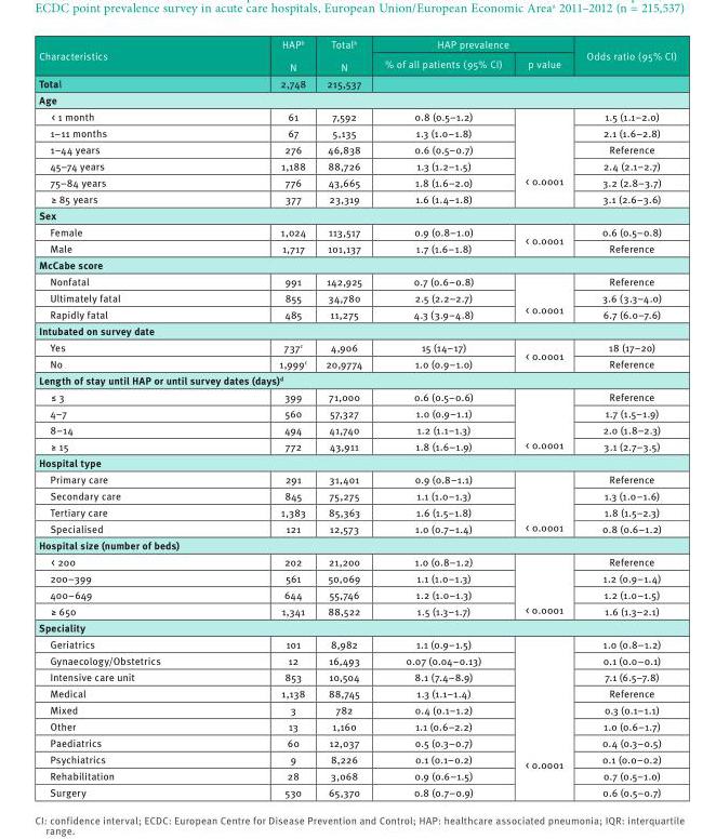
<table><thead><tr><td rowspan="2">Characteristics</td><td rowspan="2">HAP<sup>b</sup> N</td><td rowspan="2">Total<sup>b</sup> N</td><td colspan="2">HAP prevalence</td><td rowspan="2">Odds ratio (95% CI)</td></tr><tr><td>% of all patients (95% CI)</td><td>p value</td></tr></thead><tbody><tr><td>Total</td><td>2,748</td><td>215,537</td><td colspan="3"></td></tr><tr><td colspan="6">Age</td></tr><tr><td>&lt; 1 month</td><td>61</td><td>7,592</td><td>0.8 (0.5–1.2)</td><td rowspan="6">&lt; 0.0001</td><td>1.5 (1.1–2.0)</td></tr><tr><td>1–11 months</td><td>67</td><td>5,135</td><td>1.3 (1.0–1.8)</td><td>2.1 (1.6–2.8)</td></tr><tr><td>1–44 years</td><td>276</td><td>46,838</td><td>0.6 (0.5–0.7)</td><td>Reference</td></tr><tr><td>45–74 years</td><td>1,188</td><td>88,726</td><td>1.3 (1.2–1.5)</td><td>2.4 (2.1–2.7)</td></tr><tr><td>75–84 years</td><td>776</td><td>43,665</td><td>1.8 (1.6–2.0)</td><td>3.2 (2.8–3.7)</td></tr><tr><td>≥ 85 years</td><td>377</td><td>23,319</td><td>1.6 (1.4–1.8)</td><td>3.1 (2.6–3.6)</td></tr><tr><td colspan="6">Sex</td></tr><tr><td>Female</td><td>1,024</td><td>113,517</td><td>0.9 (0.8–1.0)</td><td rowspan="2">&lt; 0.0001</td><td>0.6 (0.5–0.8)</td></tr><tr><td>Male</td><td>1,717</td><td>101,137</td><td>1.7 (1.6–1.8)</td><td>Reference</td></tr><tr><td colspan="6">McCabe score</td></tr><tr><td>Nonfatal</td><td>991</td><td>142,925</td><td>0.7 (0.6–0.8)</td><td rowspan="3">&lt; 0.0001</td><td>Reference</td></tr><tr><td>Ultimately fatal</td><td>855</td><td>34,780</td><td>2.5 (2.2–2.7)</td><td>3.6 (3.3–4.0)</td></tr><tr><td>Rapidly fatal</td><td>485</td><td>11,275</td><td>4.3 (3.9–4.8)</td><td>6.7 (6.0–7.6)</td></tr><tr><td colspan="6">Intubated on survey date</td></tr><tr><td>Yes</td><td>737<sup>c</sup></td><td>4,906</td><td>15 (14–17)</td><td rowspan="2">&lt; 0.0001</td><td>18 (17–20)</td></tr><tr><td>No</td><td>1,999<sup>c</sup></td><td>20,9774</td><td>1.0 (0.9–1.0)</td><td>Reference</td></tr><tr><td colspan="6">Length of stay until HAP or until survey dates (days)<sup>d</sup></td></tr><tr><td>≤ 3</td><td>399</td><td>71,000</td><td>0.6 (0.5–0.6)</td><td rowspan="4">&lt; 0.0001</td><td>Reference</td></tr><tr><td>4–7</td><td>560</td><td>57,327</td><td>1.0 (0.9–1.1)</td><td>1.7 (1.5–1.9)</td></tr><tr><td>8–14</td><td>494</td><td>41,740</td><td>1.2 (1.1–1.3)</td><td>2.0 (1.8–2.3)</td></tr><tr><td>≥ 15</td><td>772</td><td>43,911</td><td>1.8 (1.6–1.9)</td><td>3.1 (2.7–3.5)</td></tr><tr><td colspan="6">Hospital type</td></tr><tr><td>Primary care</td><td>291</td><td>31,401</td><td>0.9 (0.8–1.1)</td><td rowspan="4">&lt; 0.0001</td><td>Reference</td></tr><tr><td>Secondary care</td><td>845</td><td>75,275</td><td>1.1 (1.0–1.3)</td><td>1.3 (1.0–1.6)</td></tr><tr><td>Tertiary care</td><td>1,383</td><td>85,363</td><td>1.6 (1.5–1.8)</td><td>1.8 (1.5–2.3)</td></tr><tr><td>Specialised</td><td>121</td><td>12,573</td><td>1.0 (0.7–1.4)</td><td>0.8 (0.6–1.2)</td></tr><tr><td colspan="6">Hospital size (number of beds)</td></tr><tr><td>&lt; 200</td><td>202</td><td>21,200</td><td>1.0 (0.8–1.2)</td><td rowspan="4">&lt; 0.0001</td><td>Reference</td></tr><tr><td>200–399</td><td>561</td><td>50,069</td><td>1.1 (1.0–1.3)</td><td>1.2 (0.9–1.4)</td></tr><tr><td>400–649</td><td>644</td><td>55,746</td><td>1.2 (1.0–1.3)</td><td>1.2 (1.0–1.5)</td></tr><tr><td>≥ 650</td><td>1,341</td><td>88,522</td><td>1.5 (1.3–1.7)</td><td>1.6 (1.3–2.1)</td></tr><tr><td colspan="6">Speciality</td></tr><tr><td>Geriatrics</td><td>101</td><td>8,982</td><td>1.1 (0.9–1.5)</td><td rowspan="10">&lt; 0.0001</td><td>1.0 (0.8–1.2)</td></tr><tr><td>Gynaecology/Obstetrics</td><td>12</td><td>16,493</td><td>0.07 (0.04–0.13)</td><td>0.1 (0.0–0.1)</td></tr><tr><td>Intensive care unit</td><td>853</td><td>10,504</td><td>8.1 (7.4–8.9)</td><td>7.1 (6.5–7.8)</td></tr><tr><td>Medical</td><td>1,138</td><td>88,745</td><td>1.3 (1.1–1.4)</td><td>Reference</td></tr><tr><td>Mixed</td><td>3</td><td>782</td><td>0.4 (0.1–1.2)</td><td>0.3 (0.1–1.1)</td></tr><tr><td>Other</td><td>13</td><td>1,160</td><td>1.1 (0.6–2.2)</td><td>1.0 (0.6–1.7)</td></tr><tr><td>Paediatrics</td><td>60</td><td>12,037</td><td>0.5 (0.3–0.7)</td><td>0.4 (0.3–0.5)</td></tr><tr><td>Psychiatrics</td><td>9</td><td>8,226</td><td>0.1 (0.1–0.2)</td><td>0.1 (0.0–0.2)</td></tr><tr><td>Rehabilitation</td><td>28</td><td>3,068</td><td>0.9 (0.6–1.5)</td><td>0.7 (0.5–1.0)</td></tr><tr><td>Surgery</td><td>530</td><td>65,370</td><td>0.8 (0.7–0.9)</td><td>0.6 (0.5–0.7)</td></tr></tbody></table>